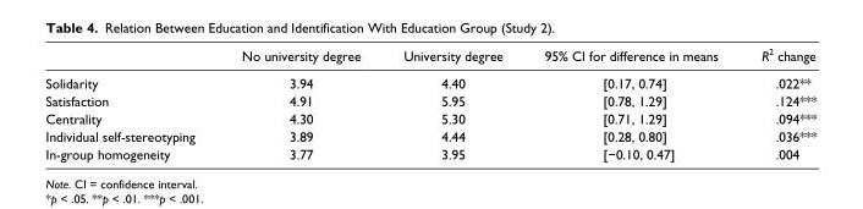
<table><thead><tr><td></td><td>No university degree</td><td>University degree</td><td>95% CI for difference in means</td><td>R<sup>2</sup> change</td></tr></thead><tbody><tr><td>Solidarity</td><td>3.94</td><td>4.40</td><td>[0.17, 0.74]</td><td>.022**</td></tr><tr><td>Satisfaction</td><td>4.91</td><td>5.95</td><td>[0.78, 1.29]</td><td>.124***</td></tr><tr><td>Centrality</td><td>4.30</td><td>5.30</td><td>[0.71, 1.29]</td><td>.094***</td></tr><tr><td>Individual self-stereotyping</td><td>3.89</td><td>4.44</td><td>[0.28, 0.80]</td><td>.036***</td></tr><tr><td>In-group homogeneity</td><td>3.77</td><td>3.95</td><td>[−0.10, 0.47]</td><td>.004</td></tr></tbody></table>